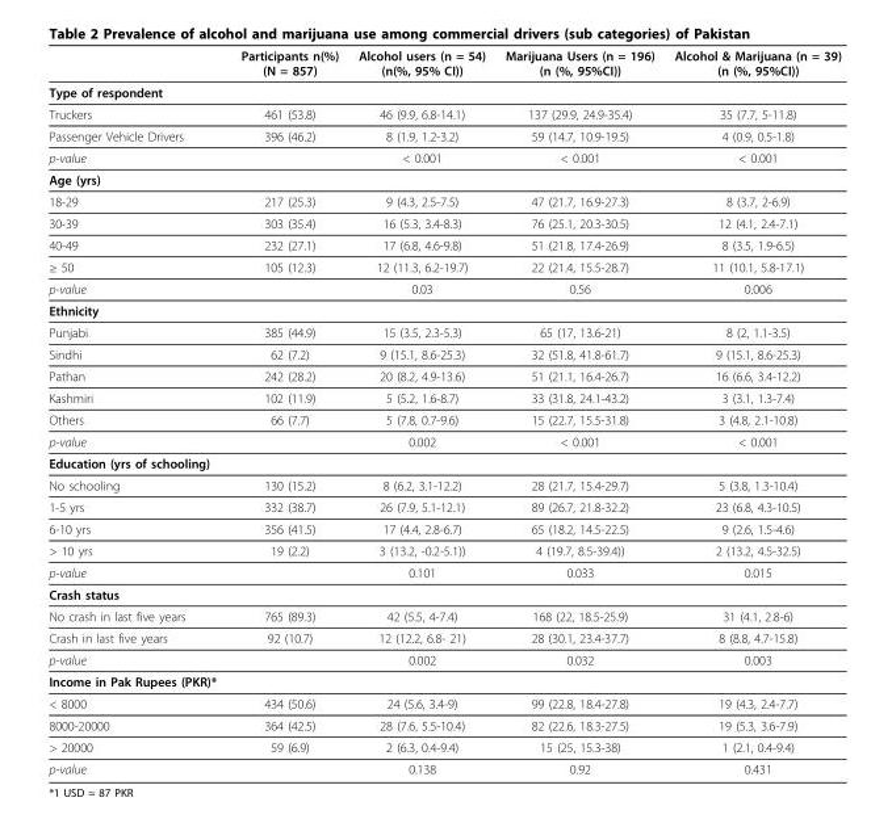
<table><thead><tr><td></td><td>Participants n(%) (N = 857)</td><td>Alcohol users (n = 54) (n(%, 95% CI))</td><td>Marijuana Users (n = 196) (n (%, 95%CI))</td><td>Alcohol &amp; Marijuana (n = 39) (n (%, 95%CI))</td></tr></thead><tbody><tr><td colspan="5">Type of respondent</td></tr><tr><td>Truckers</td><td>461 (53.8)</td><td>46 (9.9, 6.8-14.1)</td><td>137 (29.9, 24.9-35.4)</td><td>35 (7.7, 5-11.8)</td></tr><tr><td>Passenger Vehicle Drivers</td><td>396 (46.2)</td><td>8 (1.9, 1.2-3.2)</td><td>59 (14.7, 10.9-19.5)</td><td>4 (0.9, 0.5-1.8)</td></tr><tr><td>p-value</td><td></td><td>&lt; 0.001</td><td>&lt; 0.001</td><td>&lt; 0.001</td></tr><tr><td colspan="5">Age (yrs)</td></tr><tr><td>18-29</td><td>217 (25.3)</td><td>9 (4.3, 2.5-7.5)</td><td>47 (21.7, 16.9-27.3)</td><td>8 (3.7, 2-6.9)</td></tr><tr><td>30-39</td><td>303 (35.4)</td><td>16 (5.3, 3.4-8.3)</td><td>76 (25.1, 20.3-30.5)</td><td>12 (4.1, 2.4-7.1)</td></tr><tr><td>40-49</td><td>232 (27.1)</td><td>17 (6.8, 4.6-9.8)</td><td>51 (21.8, 17.4-26.9)</td><td>8 (3.5, 1.9-6.5)</td></tr><tr><td>≥ 50</td><td>105 (12.3)</td><td>12 (11.3, 6.2-19.7)</td><td>22 (21.4, 15.5-28.7)</td><td>11 (10.1, 5.8-17.1)</td></tr><tr><td>p-value</td><td></td><td>0.03</td><td>0.56</td><td>0.006</td></tr><tr><td colspan="5">Ethnicity</td></tr><tr><td>Punjabi</td><td>385 (44.9)</td><td>15 (3.5, 2.3-5.3)</td><td>65 (17, 13.6-21)</td><td>8 (2, 1.1-3.5)</td></tr><tr><td>Sindhi</td><td>62 (7.2)</td><td>9 (15.1, 8.6-25.3)</td><td>32 (51.8, 41.8-61.7)</td><td>9 (15.1, 8.6-25.3)</td></tr><tr><td>Pathan</td><td>242 (28.2)</td><td>20 (8.2, 4.9-13.6)</td><td>51 (21.1, 16.4-26.7)</td><td>16 (6.6, 3.4-12.2)</td></tr><tr><td>Kashmiri</td><td>102 (11.9)</td><td>5 (5.2, 1.6-8.7)</td><td>33 (31.8, 24.1-43.2)</td><td>3 (3.1, 1.3-7.4)</td></tr><tr><td>Others</td><td>66 (7.7)</td><td>5 (7.8, 0.7-9.6)</td><td>15 (22.7, 15.5-31.8)</td><td>3 (4.8, 2.1-10.8)</td></tr><tr><td>p-value</td><td></td><td>0.002</td><td>&lt; 0.001</td><td>&lt; 0.001</td></tr><tr><td colspan="5">Education (yrs of schooling)</td></tr><tr><td>No schooling</td><td>130 (15.2)</td><td>8 (6.2, 3.1-12.2)</td><td>28 (21.7, 15.4-29.7)</td><td>5 (3.8, 1.3-10.4)</td></tr><tr><td>1-5 yrs</td><td>332 (38.7)</td><td>26 (7.9, 5.1-12.1)</td><td>89 (26.7, 21.8-32.2)</td><td>23 (6.8, 4.3-10.5)</td></tr><tr><td>6-10 yrs</td><td>356 (41.5)</td><td>17 (4.4, 2.8-6.7)</td><td>65 (18.2, 14.5-22.5)</td><td>9 (2.6, 1.5-4.6)</td></tr><tr><td>&gt; 10 yrs</td><td>19 (2.2)</td><td>3 (13.2, -0.2-5.1))</td><td>4 (19.7, 8.5-39.4))</td><td>2 (13.2, 4.5-32.5)</td></tr><tr><td>p-value</td><td></td><td>0.101</td><td>0.033</td><td>0.015</td></tr><tr><td colspan="5">Crash status</td></tr><tr><td>No crash in last five years</td><td>765 (89.3)</td><td>42 (5.5, 4-7.4)</td><td>168 (22, 18.5-25.9)</td><td>31 (4.1, 2.8-6)</td></tr><tr><td>Crash in last five years</td><td>92 (10.7)</td><td>12 (12.2, 6.8- 21)</td><td>28 (30.1, 23.4-37.7)</td><td>8 (8.8, 4.7-15.8)</td></tr><tr><td>p-value</td><td></td><td>0.002</td><td>0.032</td><td>0.003</td></tr><tr><td colspan="5">Income in Pak Rupees (PKR)*</td></tr><tr><td>&lt; 8000</td><td>434 (50.6)</td><td>24 (5.6, 3.4-9)</td><td>99 (22.8, 18.4-27.8)</td><td>19 (4.3, 2.4-7.7)</td></tr><tr><td>8000-20000</td><td>364 (42.5)</td><td>28 (7.6, 5.5-10.4)</td><td>82 (22.6, 18.3-27.5)</td><td>19 (5.3, 3.6-7.9)</td></tr><tr><td>&gt; 20000</td><td>59 (6.9)</td><td>2 (6.3, 0.4-9.4)</td><td>15 (25, 15.3-38)</td><td>1 (2.1, 0.4-9.4)</td></tr><tr><td>p-value</td><td></td><td>0.138</td><td>0.92</td><td>0.431</td></tr></tbody></table>